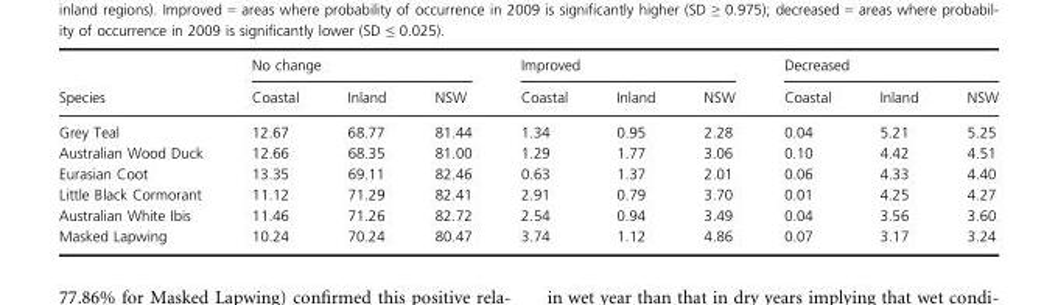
<table><thead><tr><td rowspan="2">Species</td><td colspan="3">No change</td><td colspan="3">Improved</td><td colspan="3">Decreased</td></tr><tr><td>Coastal</td><td>Inland</td><td>NSW</td><td>Coastal</td><td>Inland</td><td>NSW</td><td>Coastal</td><td>Inland</td><td>NSW</td></tr></thead><tbody><tr><td>Grey Teal</td><td>12.67</td><td>68.77</td><td>81.44</td><td>1.34</td><td>0.95</td><td>2.28</td><td>0.04</td><td>5.21</td><td>5.25</td></tr><tr><td>Australian Wood Duck</td><td>12.66</td><td>68.35</td><td>81.00</td><td>1.29</td><td>1.77</td><td>3.06</td><td>0.10</td><td>4.42</td><td>4.51</td></tr><tr><td>Eurasian Coot</td><td>13.35</td><td>69.11</td><td>82.46</td><td>0.63</td><td>1.37</td><td>2.01</td><td>0.06</td><td>4.33</td><td>4.40</td></tr><tr><td>Little Black Cormorant</td><td>11.12</td><td>71.29</td><td>82.41</td><td>2.91</td><td>0.79</td><td>3.70</td><td>0.01</td><td>4.25</td><td>4.27</td></tr><tr><td>Australian White Ibis</td><td>11.46</td><td>71.26</td><td>82.72</td><td>2.54</td><td>0.94</td><td>3.49</td><td>0.04</td><td>3.56</td><td>3.60</td></tr><tr><td>Masked Lapwing</td><td>10.24</td><td>70.24</td><td>80.47</td><td>3.74</td><td>1.12</td><td>4.86</td><td>0.07</td><td>3.17</td><td>3.24</td></tr></tbody></table>